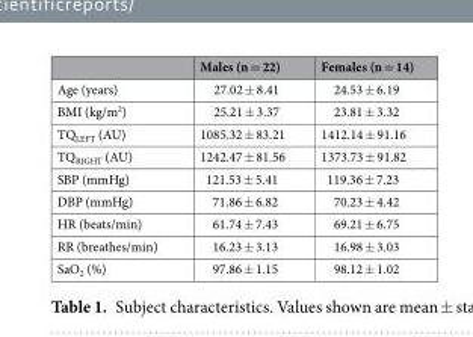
<table><thead><tr><td></td><td>Males (n = 22)</td><td>Females (n = 14)</td></tr></thead><tbody><tr><td>Age (years)</td><td>27.02 ± 8.41</td><td>24.53 ± 6.19</td></tr><tr><td>BMI (kg/m<sup>2</sup>)</td><td>25.21 ± 3.37</td><td>23.81 ± 3.32</td></tr><tr><td>TQ<sub>LEFT</sub> (AU)</td><td>1085.32 ± 83.21</td><td>1412.14 ± 91.16</td></tr><tr><td>TQ<sub>RIGHT</sub> (AU)</td><td>1242.47 ± 81.56</td><td>1373.73 ± 91.82</td></tr><tr><td>SBP (mmHg)</td><td>121.53 ± 5.41</td><td>119.36 ± 7.23</td></tr><tr><td>DBP (mmHg)</td><td>71.86 ± 6.82</td><td>70.23 ± 4.42</td></tr><tr><td>HR (beats/min)</td><td>61.74 ± 7.43</td><td>69.21 ± 6.75</td></tr><tr><td>RR (breathes/min)</td><td>16.23 ± 3.13</td><td>16.98 ± 3.03</td></tr><tr><td>SaO<sub>2</sub> (%)</td><td>97.86 ± 1.15</td><td>98.12 ± 1.02</td></tr></tbody></table>